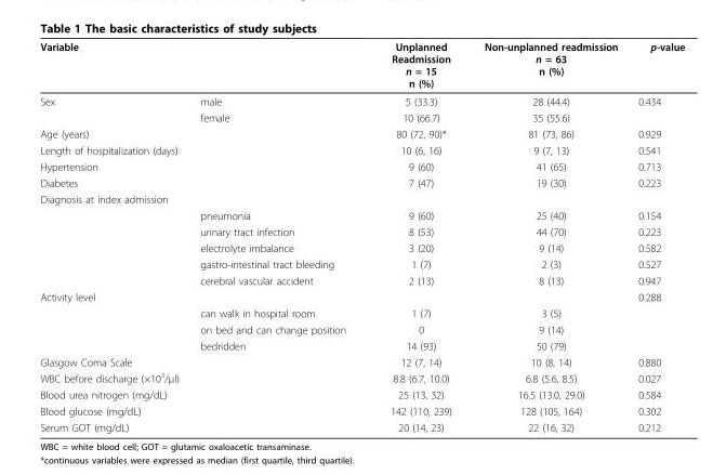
<table><thead><tr><td>Variable</td><td></td><td>Unplanned Readmission n = 15 n (%)</td><td>Non-unplanned readmission n = 63 n (%)</td><td>p-value</td></tr></thead><tbody><tr><td rowspan="2">Sex</td><td>male</td><td>5 (33.3)</td><td>28 (44.4)</td><td>0.434</td></tr><tr><td>female</td><td>10 (66.7)</td><td>35 (55.6)</td><td></td></tr><tr><td colspan="2">Age (years)</td><td>80 (72, 90)*</td><td>81 (73, 86)</td><td>0.929</td></tr><tr><td colspan="2">Length of hospitalization (days)</td><td>10 (6, 16)</td><td>9 (7, 13)</td><td>0.541</td></tr><tr><td colspan="2">Hypertension</td><td>9 (60)</td><td>41 (65)</td><td>0.713</td></tr><tr><td colspan="2">Diabetes</td><td>7 (47)</td><td>19 (30)</td><td>0.223</td></tr><tr><td colspan="5">Diagnosis at index admission</td></tr><tr><td></td><td>pneumonia</td><td>9 (60)</td><td>25 (40)</td><td>0.154</td></tr><tr><td></td><td>urinary tract infection</td><td>8 (53)</td><td>44 (70)</td><td>0.223</td></tr><tr><td></td><td>electrolyte imbalance</td><td>3 (20)</td><td>9 (14)</td><td>0.582</td></tr><tr><td></td><td>gastro-intestinal tract bleeding</td><td>1 (7)</td><td>2 (3)</td><td>0.527</td></tr><tr><td></td><td>cerebral vascular accident</td><td>2 (13)</td><td>8 (13)</td><td>0.947</td></tr><tr><td rowspan="4">Activity level</td><td></td><td></td><td></td><td>0.288</td></tr><tr><td>can walk in hospital room</td><td>1 (7)</td><td>3 (5)</td><td></td></tr><tr><td>on bed and can change position</td><td>0</td><td>9 (14)</td><td></td></tr><tr><td>bedridden</td><td>14 (93)</td><td>50 (79)</td><td></td></tr><tr><td colspan="2">Glasgow Coma Scale</td><td>12 (7, 14)</td><td>10 (8, 14)</td><td>0.880</td></tr><tr><td colspan="2">WBC before discharge (×10<sup>3</sup>/μl)</td><td>8.8 (6.7, 10.0)</td><td>6.8 (5.6, 8.5)</td><td>0.027</td></tr><tr><td colspan="2">Blood urea nitrogen (mg/dL)</td><td>25 (13, 32)</td><td>16.5 (13.0, 29.0)</td><td>0.584</td></tr><tr><td colspan="2">Blood glucose (mg/dL)</td><td>142 (110, 239)</td><td>128 (105, 164)</td><td>0.302</td></tr><tr><td colspan="2">Serum GOT (mg/dL)</td><td>20 (14, 23)</td><td>22 (16, 32)</td><td>0.212</td></tr></tbody></table>